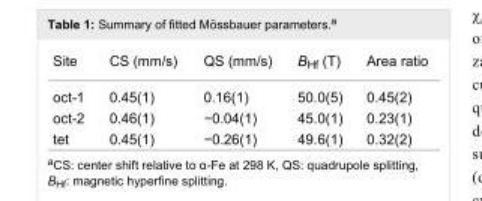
<table><tbody><tr><td>Site</td><td>CS (mm/s)</td><td>QS (mm/s)</td><td>B<sub>Hf</sub> (T)</td><td>Area ratio</td></tr><tr><td>oct-1</td><td>0.45(1)</td><td>0.16(1)</td><td>50.0(5)</td><td>0.45(2)</td></tr><tr><td>oct-2</td><td>0.46(1)</td><td>−0.04(1)</td><td>45.0(1)</td><td>0.23(1)</td></tr><tr><td>tet</td><td>0.45(1)</td><td>−0.26(1)</td><td>49.6(1)</td><td>0.32(2)</td></tr></tbody></table>